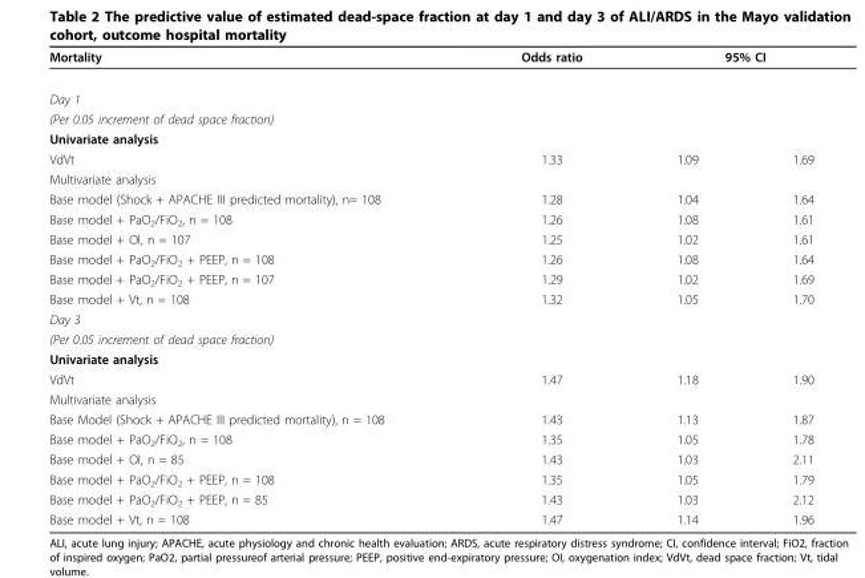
<table><thead><tr><td rowspan="2">Mortality Day 1</td><td rowspan="2">Odds ratio</td><td colspan="2">95% CI</td></tr><tr><td></td><td></td></tr></thead><tbody><tr><td colspan="4">(Per 0.05 increment of dead space fraction)</td></tr><tr><td colspan="4">Univariate analysis</td></tr><tr><td>VdVt</td><td>1.33</td><td>1.09</td><td>1.69</td></tr><tr><td colspan="4">Multivariate analysis</td></tr><tr><td>Base model (Shock + APACHE III predicted mortality), n= 108</td><td>1.28</td><td>1.04</td><td>1.64</td></tr><tr><td>Base model + PaO<sub>2</sub>/FiO<sub>2</sub>, n = 108</td><td>1.26</td><td>1.08</td><td>1.61</td></tr><tr><td>Base model + OI, n = 107</td><td>1.25</td><td>1.02</td><td>1.61</td></tr><tr><td>Base model + PaO<sub>2</sub>/FiO<sub>2</sub> + PEEP, n = 108</td><td>1.26</td><td>1.08</td><td>1.64</td></tr><tr><td>Base model + PaO<sub>2</sub>/FiO<sub>2</sub> + PEEP, n = 107</td><td>1.29</td><td>1.02</td><td>1.69</td></tr><tr><td>Base model + Vt, n = 108</td><td>1.32</td><td>1.05</td><td>1.70</td></tr><tr><td colspan="4">Day 3</td></tr><tr><td colspan="4">(Per 0.05 increment of dead space fraction)</td></tr><tr><td colspan="4">Univariate analysis</td></tr><tr><td>VdVt</td><td>1.47</td><td>1.18</td><td>1.90</td></tr><tr><td colspan="4">Multivariate analysis</td></tr><tr><td>Base Model (Shock + APACHE III predicted mortality), n = 108</td><td>1.43</td><td>1.13</td><td>1.87</td></tr><tr><td>Base model + PaO<sub>2</sub>/FiO<sub>2</sub>, n = 108</td><td>1.35</td><td>1.05</td><td>1.78</td></tr><tr><td>Base model + OI, n = 85</td><td>1.43</td><td>1.03</td><td>2.11</td></tr><tr><td>Base model + PaO<sub>2</sub>/FiO<sub>2</sub> + PEEP, n = 108</td><td>1.35</td><td>1.05</td><td>1.79</td></tr><tr><td>Base model + PaO<sub>2</sub>/FiO<sub>2</sub> + PEEP, n = 85</td><td>1.43</td><td>1.03</td><td>2.12</td></tr><tr><td>Base model + Vt, n = 108</td><td>1.47</td><td>1.14</td><td>1.96</td></tr></tbody></table>